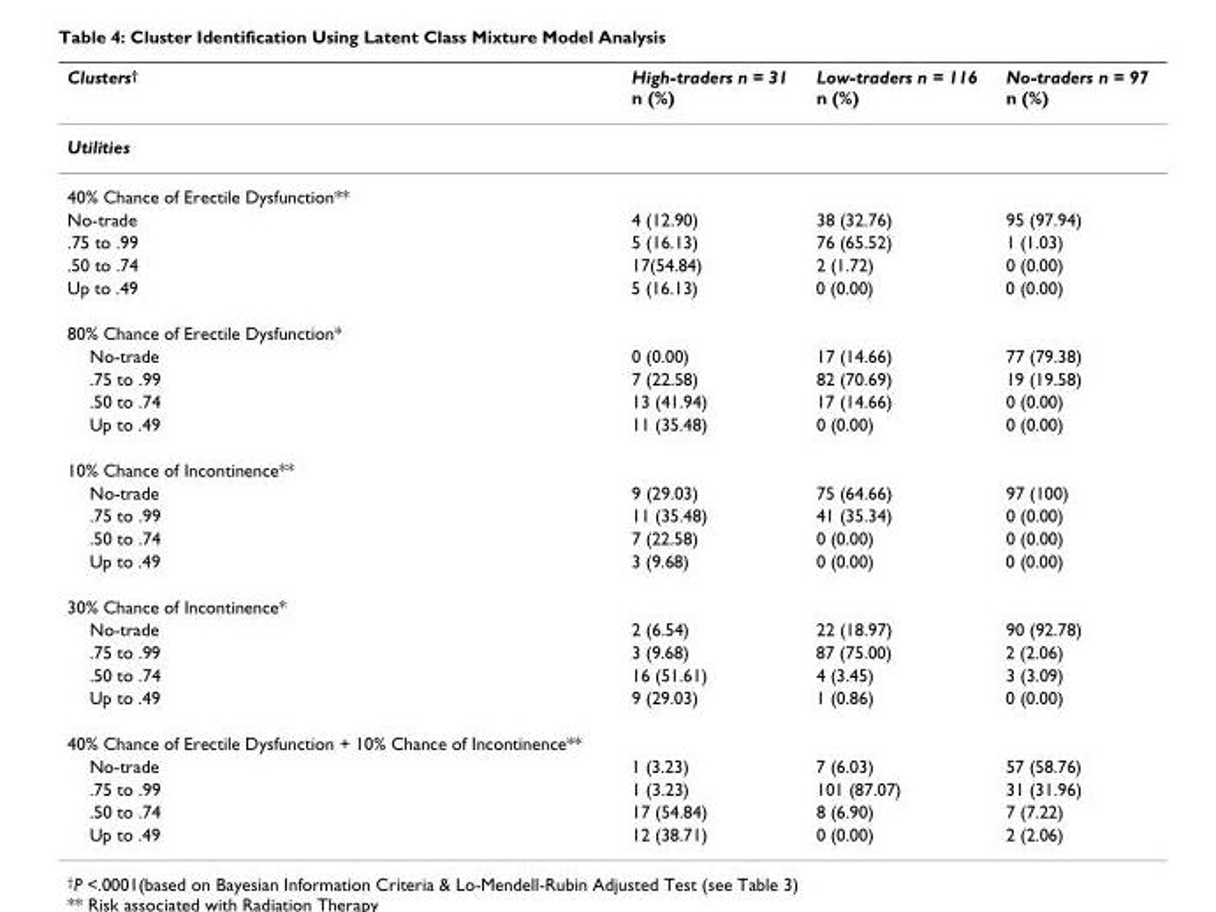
<table><thead><tr><td>Clusters<sup>†</sup></td><td>High-traders n = 31 n (%)</td><td>Low-traders n = 116 n (%)</td><td>No-traders n = 97 n (%)</td></tr></thead><tbody><tr><td colspan="4">Utilities</td></tr><tr><td colspan="4">40% Chance of Erectile Dysfunction**</td></tr><tr><td>No-trade</td><td>4 (12.90)</td><td>38 (32.76)</td><td>95 (97.94)</td></tr><tr><td>.75 to .99</td><td>5 (16.13)</td><td>76 (65.52)</td><td>1 (1.03)</td></tr><tr><td>.50 to .74</td><td>17(54.84)</td><td>2 (1.72)</td><td>0 (0.00)</td></tr><tr><td>Up to .49</td><td>5 (16.13)</td><td>0 (0.00)</td><td>0 (0.00)</td></tr><tr><td colspan="4">80% Chance of Erectile Dysfunction*</td></tr><tr><td>No-trade</td><td>0 (0.00)</td><td>17 (14.66)</td><td>77 (79.38)</td></tr><tr><td>.75 to .99</td><td>7 (22.58)</td><td>82 (70.69)</td><td>19 (19.58)</td></tr><tr><td>.50 to .74</td><td>13 (41.94)</td><td>17 (14.66)</td><td>0 (0.00)</td></tr><tr><td>Up to .49</td><td>11 (35.48)</td><td>0 (0.00)</td><td>0 (0.00)</td></tr><tr><td colspan="4">10% Chance of Incontinence**</td></tr><tr><td>No-trade</td><td>9 (29.03)</td><td>75 (64.66)</td><td>97 (100)</td></tr><tr><td>.75 to .99</td><td>11 (35.48)</td><td>41 (35.34)</td><td>0 (0.00)</td></tr><tr><td>.50 to .74</td><td>7 (22.58)</td><td>0 (0.00)</td><td>0 (0.00)</td></tr><tr><td>Up to .49</td><td>3 (9.68)</td><td>0 (0.00)</td><td>0 (0.00)</td></tr><tr><td colspan="4">30% Chance of Incontinence*</td></tr><tr><td>No-trade</td><td>2 (6.54)</td><td>22 (18.97)</td><td>90 (92.78)</td></tr><tr><td>.75 to .99</td><td>3 (9.68)</td><td>87 (75.00)</td><td>2 (2.06)</td></tr><tr><td>.50 to .74</td><td>16 (51.61)</td><td>4 (3.45)</td><td>3 (3.09)</td></tr><tr><td>Up to .49</td><td>9 (29.03)</td><td>1 (0.86)</td><td>0 (0.00)</td></tr><tr><td colspan="4">40% Chance of Erectile Dysfunction + 10% Chance of Incontinence**</td></tr><tr><td>No-trade</td><td>1 (3.23)</td><td>7 (6.03)</td><td>57 (58.76)</td></tr><tr><td>.75 to .99</td><td>1 (3.23)</td><td>101 (87.07)</td><td>31 (31.96)</td></tr><tr><td>.50 to .74</td><td>17 (54.84)</td><td>8 (6.90)</td><td>7 (7.22)</td></tr><tr><td>Up to .49</td><td>12 (38.71)</td><td>0 (0.00)</td><td>2 (2.06)</td></tr></tbody></table>